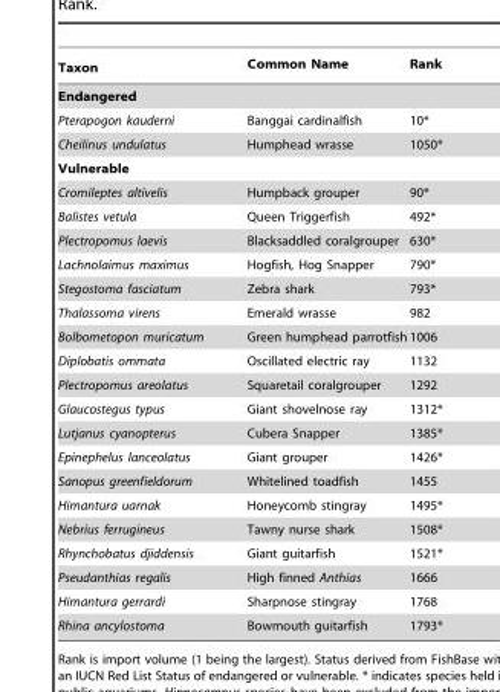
<table><thead><tr><td>Taxon</td><td>Common Name</td><td>Rank</td></tr></thead><tbody><tr><td colspan="3">Endangered</td></tr><tr><td>Pterapogon kauderni</td><td>Banggai cardinalfish</td><td>10*</td></tr><tr><td>Cheilinus undulatus</td><td>Humphead wrasse</td><td>1050*</td></tr><tr><td colspan="3">Vulnerable</td></tr><tr><td>Cromileptes altivelis</td><td>Humpback grouper</td><td>90*</td></tr><tr><td>Balistes vetula</td><td>Queen Triggerfish</td><td>492*</td></tr><tr><td>Plectropomus laevis</td><td>Blacksaddled coralgrouper</td><td>630*</td></tr><tr><td>Lachnolaimus maximus</td><td>Hogfish, Hog Snapper</td><td>790*</td></tr><tr><td>Stegostoma fasciatum</td><td>Zebra shark</td><td>793*</td></tr><tr><td>Thalassoma virens</td><td>Emerald wrasse</td><td>982</td></tr><tr><td>Bolbometopon muricatum</td><td>Green humphead parrotfish</td><td>1006</td></tr><tr><td>Diplobatis ommata</td><td>Oscillated electric ray</td><td>1132</td></tr><tr><td>Plectropomus areolatus</td><td>Squaretail coralgrouper</td><td>1292</td></tr><tr><td>Glaucostegus typus</td><td>Giant shovelnose ray</td><td>1312*</td></tr><tr><td>Lutjanus cyanopterus</td><td>Cubera Snapper</td><td>1385*</td></tr><tr><td>Epinephelus lanceolatus</td><td>Giant grouper</td><td>1426*</td></tr><tr><td>Sanopus greenfieldorum</td><td>Whitelined toadfish</td><td>1455</td></tr><tr><td>Himantura uarnak</td><td>Honeycomb stingray</td><td>1495*</td></tr><tr><td>Nebrius ferrugineus</td><td>Tawny nurse shark</td><td>1508*</td></tr><tr><td>Rhynchobatus djiddensis</td><td>Giant guitarfish</td><td>1521*</td></tr><tr><td>Pseudanthias regalis</td><td>High finned Anthias</td><td>1666</td></tr><tr><td>Himantura gerrardi</td><td>Sharpnose stingray</td><td>1768</td></tr><tr><td>Rhina ancylostoma</td><td>Bowmouth guitarfish</td><td>1793*</td></tr></tbody></table>